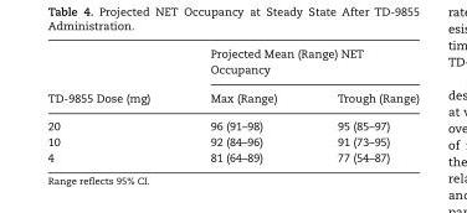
<table><thead><tr><td rowspan="2">TD-9855 Dose (mg)</td><td colspan="2">Projected Mean (Range) NET Occupancy</td></tr><tr><td>Max (Range)</td><td>Trough (Range)</td></tr></thead><tbody><tr><td>20</td><td>96 (91–98)</td><td>95 (85–97)</td></tr><tr><td>10</td><td>92 (84–96)</td><td>91 (73–95)</td></tr><tr><td>4</td><td>81 (64–89)</td><td>77 (54–87)</td></tr></tbody></table>